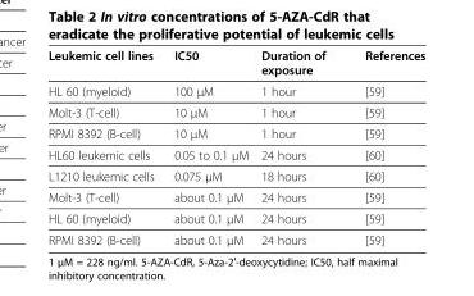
<table><thead><tr><td>Leukemic cell lines</td><td>IC50</td><td>Duration of exposure</td><td>References</td></tr></thead><tbody><tr><td>HL 60 (myeloid)</td><td>100 μM</td><td>1 hour</td><td>[59]</td></tr><tr><td>Molt-3 (T-cell)</td><td>10 μM</td><td>1 hour</td><td>[59]</td></tr><tr><td>RPMI 8392 (B-cell)</td><td>10 μM</td><td>1 hour</td><td>[59]</td></tr><tr><td>HL60 leukemic cells</td><td>0.05 to 0.1 μM</td><td>24 hours</td><td>[60]</td></tr><tr><td>L1210 leukemic cells</td><td>0.075 μM</td><td>18 hours</td><td>[60]</td></tr><tr><td>Molt-3 (T-cell)</td><td>about 0.1 μM</td><td>24 hours</td><td>[59]</td></tr><tr><td>HL 60 (myeloid)</td><td>about 0.1 μM</td><td>24 hours</td><td>[59]</td></tr><tr><td>RPMI 8392 (B-cell)</td><td>about 0.1 μM</td><td>24 hours</td><td>[59]</td></tr></tbody></table>